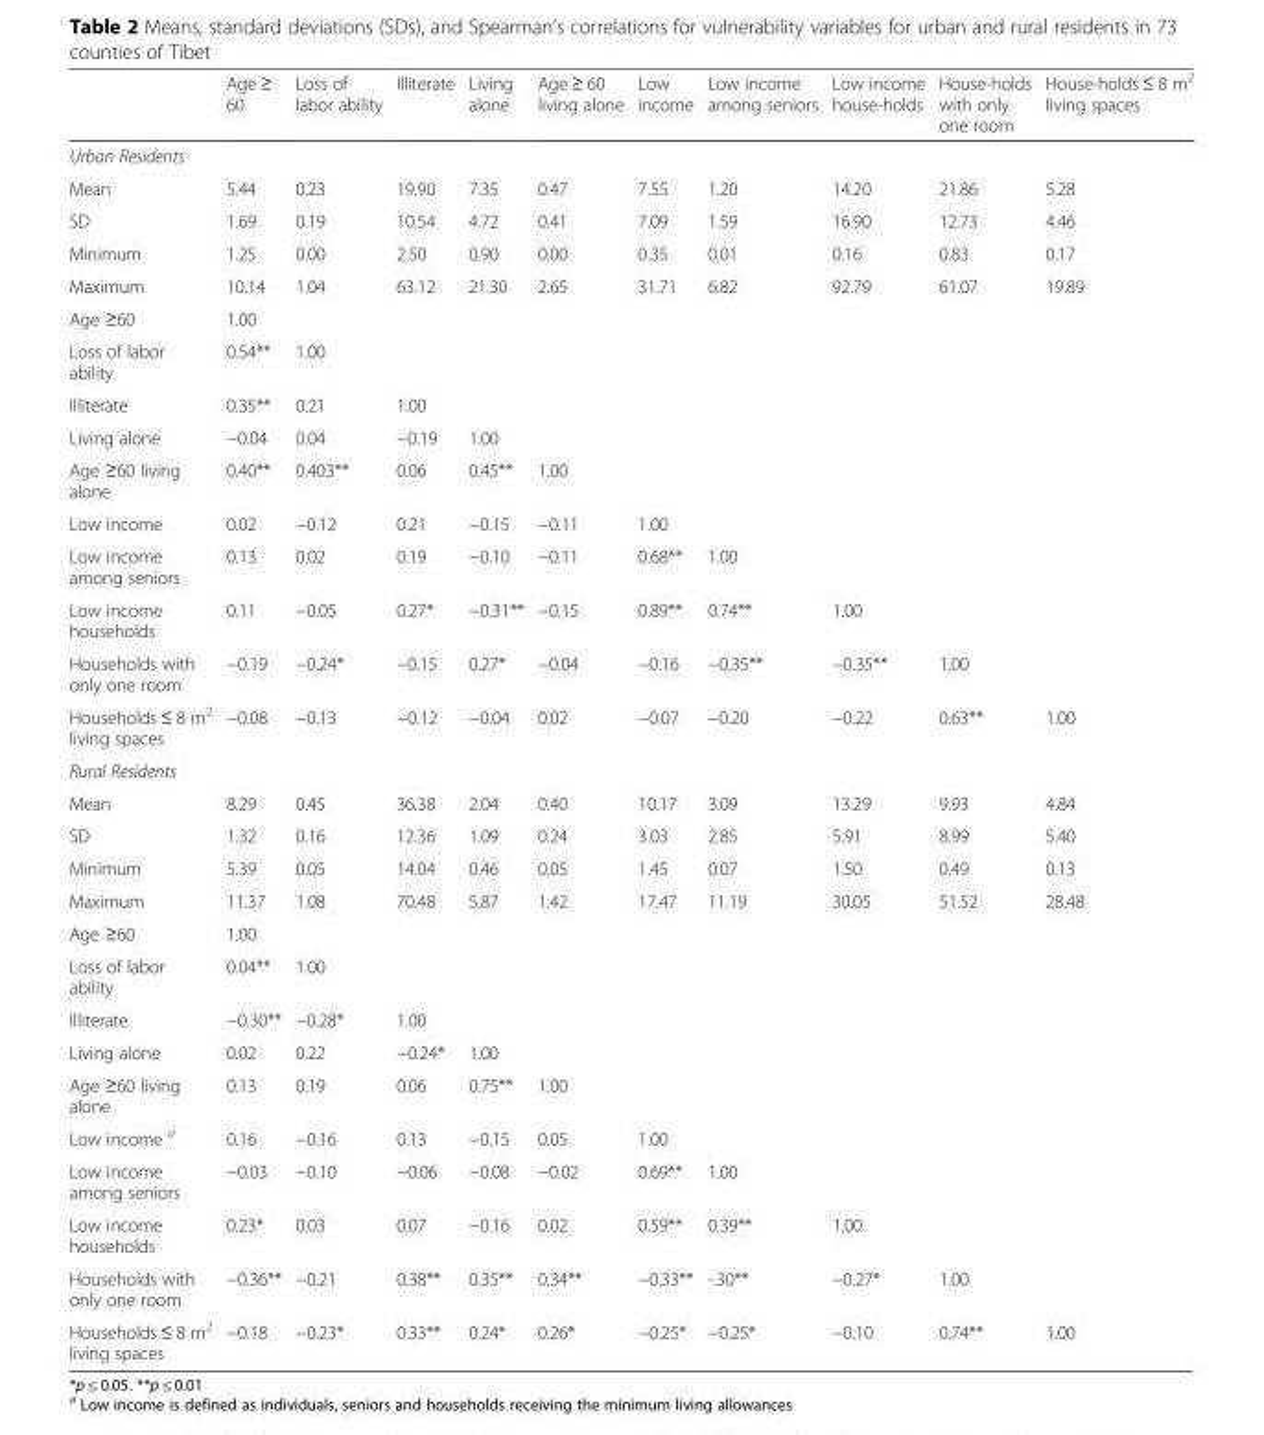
<table><thead><tr><td></td><td>Age ≥ 60</td><td>Loss of labor ability</td><td>Illiterate</td><td>Living alone</td><td>Age ≥ 60 living alone</td><td>Low income</td><td>Low income among seniors</td><td>Low income house-holds</td><td>House-holds with only one room</td><td>House-holds ≤ 8 m<sup>2</sup> living spaces</td></tr></thead><tbody><tr><td colspan="11">Urban Residents</td></tr><tr><td>Mean</td><td>5.44</td><td>0.23</td><td>19.90</td><td>7.35</td><td>0.47</td><td>7.55</td><td>1.20</td><td>14.20</td><td>21.86</td><td>5.28</td></tr><tr><td>SD</td><td>1.69</td><td>0.19</td><td>10.54</td><td>4.72</td><td>0.41</td><td>7.09</td><td>1.59</td><td>16.90</td><td>12.73</td><td>4.46</td></tr><tr><td>Minimum</td><td>1.25</td><td>0.00</td><td>2.50</td><td>0.90</td><td>0.00</td><td>0.35</td><td>0.01</td><td>0.16</td><td>0.83</td><td>0.17</td></tr><tr><td>Maximum</td><td>10.14</td><td>1.04</td><td>63.12</td><td>21.30</td><td>2.65</td><td>31.71</td><td>6.82</td><td>92.79</td><td>61.07</td><td>19.89</td></tr><tr><td>Age ≥60</td><td>1.00</td><td></td><td></td><td></td><td></td><td></td><td></td><td></td><td></td><td></td></tr><tr><td>Loss of labor ability</td><td>0.54**</td><td>1.00</td><td></td><td></td><td></td><td></td><td></td><td></td><td></td><td></td></tr><tr><td>Illiterate</td><td>0.35**</td><td>0.21</td><td>1.00</td><td></td><td></td><td></td><td></td><td></td><td></td><td></td></tr><tr><td>Living alone</td><td>−0.04</td><td>0.04</td><td>−0.19</td><td>1.00</td><td></td><td></td><td></td><td></td><td></td><td></td></tr><tr><td>Age ≥60 living alone</td><td>0.40**</td><td>0.403**</td><td>0.06</td><td>0.45**</td><td>1.00</td><td></td><td></td><td></td><td></td><td></td></tr><tr><td>Low income</td><td>0.02</td><td>−0.12</td><td>0.21</td><td>−0.15</td><td>−0.11</td><td>1.00</td><td></td><td></td><td></td><td></td></tr><tr><td>Low income among seniors</td><td>0.13</td><td>0.02</td><td>0.19</td><td>−0.10</td><td>−0.11</td><td>0.68**</td><td>1.00</td><td></td><td></td><td></td></tr><tr><td>Low income households</td><td>0.11</td><td>−0.05</td><td>0.27*</td><td>−0.31**</td><td>−0.15</td><td>0.89**</td><td>0.74**</td><td>1.00</td><td></td><td></td></tr><tr><td>Households with only one room</td><td>−0.19</td><td>−0.24*</td><td>−0.15</td><td>0.27*</td><td>−0.04</td><td>−0.16</td><td>−0.35**</td><td>−0.35**</td><td>1.00</td><td></td></tr><tr><td>Households ≤ 8 m<sup>2</sup> living spaces</td><td>−0.08</td><td>−0.13</td><td>−0.12</td><td>−0.04</td><td>0.02</td><td>−0.07</td><td>−0.20</td><td>−0.22</td><td>0.63**</td><td>1.00</td></tr><tr><td colspan="11">Rural Residents</td></tr><tr><td>Mean</td><td>8.29</td><td>0.45</td><td>36.38</td><td>2.04</td><td>0.40</td><td>10.17</td><td>3.09</td><td>13.29</td><td>9.93</td><td>4.84</td></tr><tr><td>SD</td><td>1.32</td><td>0.16</td><td>12.36</td><td>1.09</td><td>0.24</td><td>3.03</td><td>2.85</td><td>5.91</td><td>8.99</td><td>5.40</td></tr><tr><td>Minimum</td><td>5.39</td><td>0.05</td><td>14.04</td><td>0.46</td><td>0.05</td><td>1.45</td><td>0.07</td><td>1.50</td><td>0.49</td><td>0.13</td></tr><tr><td>Maximum</td><td>11.37</td><td>1.08</td><td>70.48</td><td>5.87</td><td>1.42</td><td>17.47</td><td>11.19</td><td>30.05</td><td>51.52</td><td>28.48</td></tr><tr><td>Age ≥60</td><td>1.00</td><td></td><td></td><td></td><td></td><td></td><td></td><td></td><td></td><td></td></tr><tr><td>Loss of labor ability</td><td>0.04**</td><td>1.00</td><td></td><td></td><td></td><td></td><td></td><td></td><td></td><td></td></tr><tr><td>Illiterate</td><td>−0.30**</td><td>−0.28*</td><td>1.00</td><td></td><td></td><td></td><td></td><td></td><td></td><td></td></tr><tr><td>Living alone</td><td>0.02</td><td>0.22</td><td>−0.24*</td><td>1.00</td><td></td><td></td><td></td><td></td><td></td><td></td></tr><tr><td>Age ≥60 living alone</td><td>0.13</td><td>0.19</td><td>0.06</td><td>0.75**</td><td>1.00</td><td></td><td></td><td></td><td></td><td></td></tr><tr><td>Low income <sup>a</sup></td><td>0.16</td><td>−0.16</td><td>0.13</td><td>−0.15</td><td>0.05</td><td>1.00</td><td></td><td></td><td></td><td></td></tr><tr><td>Low income among seniors</td><td>−0.03</td><td>−0.10</td><td>−0.06</td><td>−0.08</td><td>−0.02</td><td>0.69**</td><td>1.00</td><td></td><td></td><td></td></tr><tr><td>Low income households</td><td>0.23*</td><td>0.03</td><td>0.07</td><td>−0.16</td><td>0.02</td><td>0.59**</td><td>0.39**</td><td>1.00</td><td></td><td></td></tr><tr><td>Households with only one room</td><td>−0.36**</td><td>−0.21</td><td>0.38**</td><td>0.35**</td><td>0.34**</td><td>−0.33**</td><td>-.30**</td><td>−0.27*</td><td>1.00</td><td></td></tr><tr><td>Households ≤ 8 m<sup>2</sup> living spaces</td><td>−0.18</td><td>−0.23*</td><td>0.33**</td><td>0.24*</td><td>0.26*</td><td>−0.25*</td><td>−0.25*</td><td>−0.10</td><td>0.74**</td><td>1.00</td></tr></tbody></table>